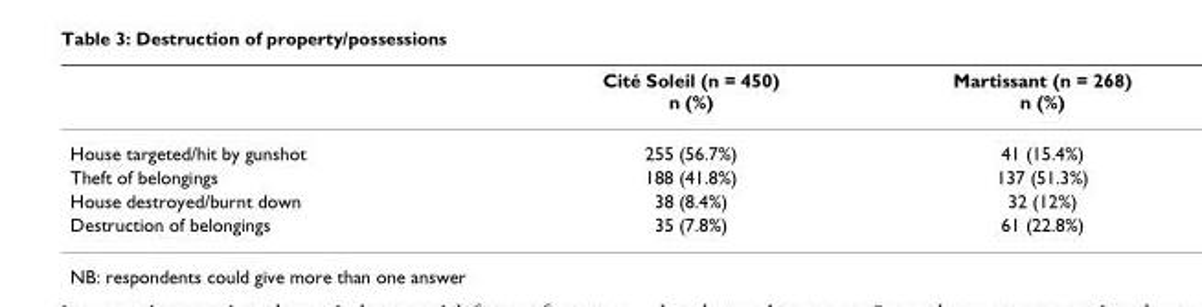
<table><thead><tr><td></td><td>Cité Soleil (n = 450) n (%)</td><td>Martissant (n = 268) n (%)</td></tr></thead><tbody><tr><td>House targeted/hit by gunshot</td><td>255 (56.7%)</td><td>41 (15.4%)</td></tr><tr><td>Theft of belongings</td><td>188 (41.8%)</td><td>137 (51.3%)</td></tr><tr><td>House destroyed/burnt down</td><td>38 (8.4%)</td><td>32 (12%)</td></tr><tr><td>Destruction of belongings</td><td>35 (7.8%)</td><td>61 (22.8%)</td></tr></tbody></table>